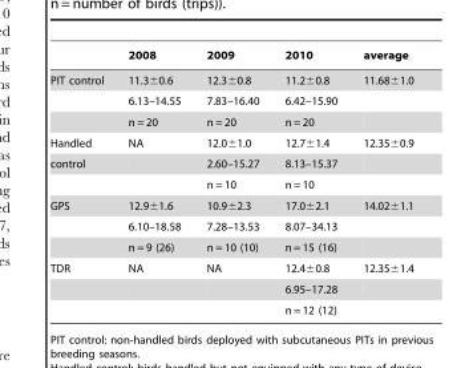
<table><thead><tr><td></td><td>2008</td><td>2009</td><td>2010</td><td>average</td></tr></thead><tbody><tr><td rowspan="3">PIT control</td><td>11.3±0.6</td><td>12.3±0.8</td><td>11.2±0.8</td><td>11.68±1.0</td></tr><tr><td>6.13–14.55</td><td>7.83–16.40</td><td>6.42–15.90</td><td></td></tr><tr><td>n = 20</td><td>n = 20</td><td>n = 20</td><td></td></tr><tr><td>Handled</td><td>NA</td><td>12.0±1.0</td><td>12.7±1.4</td><td>12.35±0.9</td></tr><tr><td rowspan="2">control</td><td></td><td>2.60–15.27</td><td>8.13–15.37</td><td></td></tr><tr><td></td><td>n = 10</td><td>n = 10</td><td></td></tr><tr><td rowspan="3">GPS</td><td>12.9±1.6</td><td>10.9±2.3</td><td>17.0±2.1</td><td>14.02±1.1</td></tr><tr><td>6.10–18.58</td><td>7.28–13.53</td><td>8.07–34.13</td><td></td></tr><tr><td>n = 9 (26)</td><td>n = 10 (10)</td><td>n = 15 (16)</td><td></td></tr><tr><td rowspan="3">TDR</td><td>NA</td><td>NA</td><td>12.4±0.8</td><td>12.35±1.4</td></tr><tr><td></td><td></td><td>6.95–17.28</td><td></td></tr><tr><td></td><td></td><td>n = 12 (12)</td><td></td></tr></tbody></table>